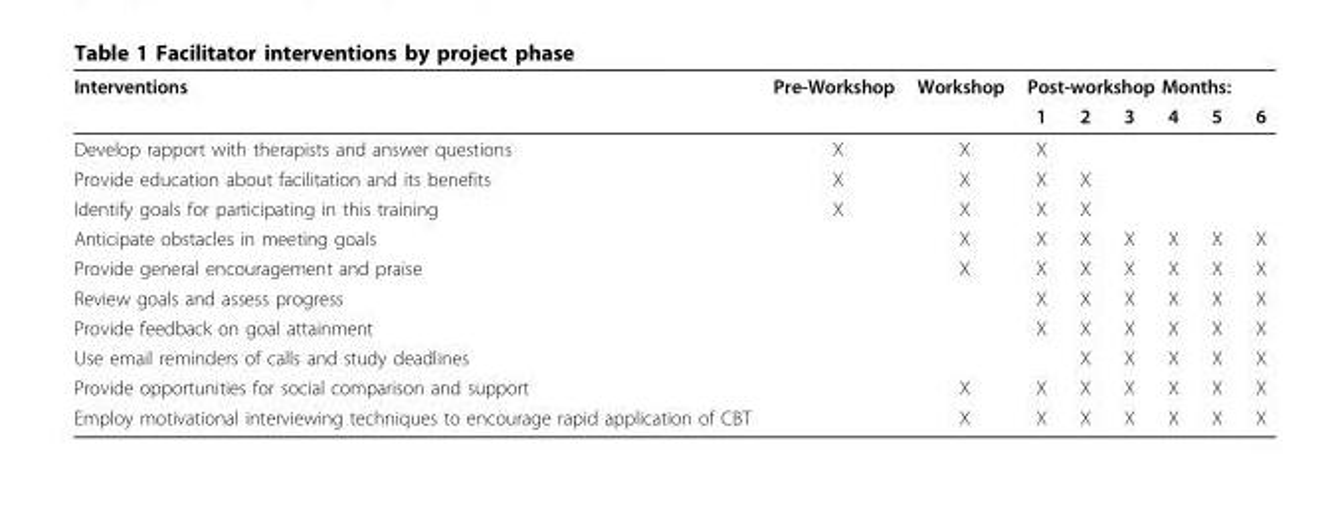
<table><thead><tr><td rowspan="2">Interventions</td><td rowspan="2">Pre-Workshop</td><td rowspan="2">Workshop</td><td colspan="6">Post-workshop Months:</td></tr><tr><td>1</td><td>2</td><td>3</td><td>4</td><td>5</td><td>6</td></tr></thead><tbody><tr><td>Develop rapport with therapists and answer questions</td><td>X</td><td>X</td><td>X</td><td></td><td></td><td></td><td></td><td></td></tr><tr><td>Provide education about facilitation and its benefits</td><td>X</td><td>X</td><td>X</td><td>X</td><td></td><td></td><td></td><td></td></tr><tr><td>Identify goals for participating in this training</td><td>X</td><td>X</td><td>X</td><td>X</td><td></td><td></td><td></td><td></td></tr><tr><td>Anticipate obstacles in meeting goals</td><td></td><td>X</td><td>X</td><td>X</td><td>X</td><td>X</td><td>X</td><td>X</td></tr><tr><td>Provide general encouragement and praise</td><td></td><td>X</td><td>X</td><td>X</td><td>X</td><td>X</td><td>X</td><td>X</td></tr><tr><td>Review goals and assess progress</td><td></td><td></td><td>X</td><td>X</td><td>X</td><td>X</td><td>X</td><td>X</td></tr><tr><td>Provide feedback on goal attainment</td><td></td><td></td><td>X</td><td>X</td><td>X</td><td>X</td><td>X</td><td>X</td></tr><tr><td>Use email reminders of calls and study deadlines</td><td></td><td></td><td></td><td>X</td><td>X</td><td>X</td><td>X</td><td>X</td></tr><tr><td>Provide opportunities for social comparison and support</td><td></td><td>X</td><td>X</td><td>X</td><td>X</td><td>X</td><td>X</td><td>X</td></tr><tr><td>Employ motivational interviewing techniques to encourage rapid application of CBT</td><td></td><td>X</td><td>X</td><td>X</td><td>X</td><td>X</td><td>X</td><td>X</td></tr></tbody></table>